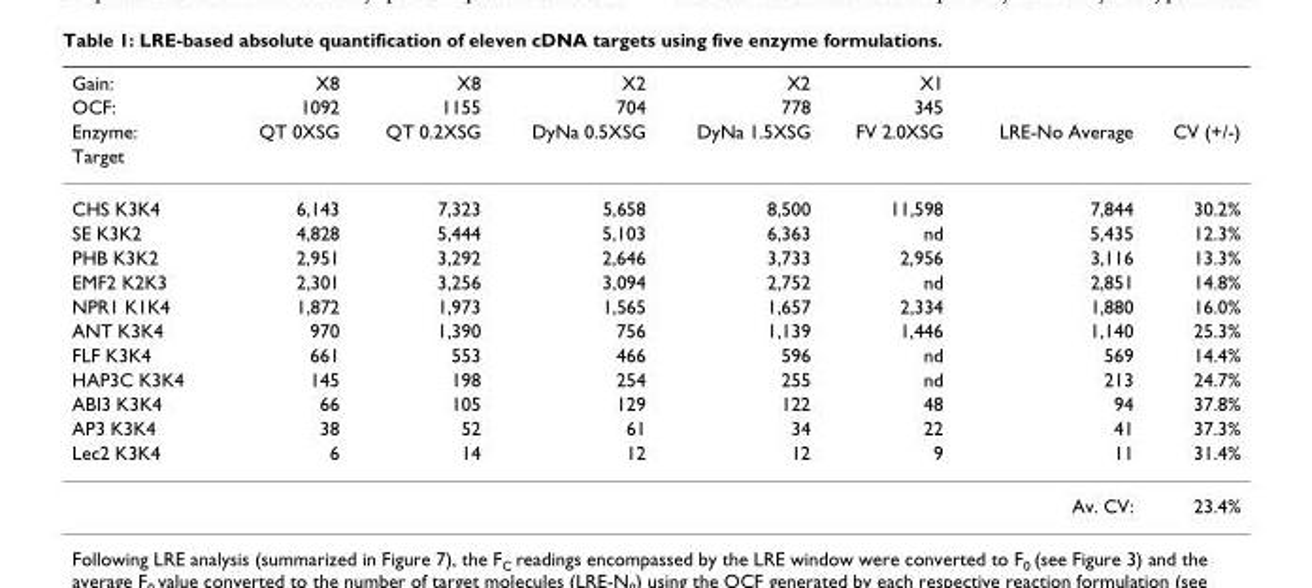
<table><thead><tr><td rowspan="4">Gain: OCF: Enzyme: Target</td><td rowspan="4">X8 1092 QT 0XSG</td><td rowspan="4">X8 1155 QT 0.2XSG</td><td rowspan="4">X2 704 DyNa 0.5XSG</td><td rowspan="4">X2 778 DyNa 1.5XSG</td><td rowspan="4">X1 345 FV 2.0XSG</td><td rowspan="4">LRE-No Average</td><td rowspan="4">CV (+/-)</td></tr><tr></tr><tr></tr><tr></tr></thead><tbody><tr><td>CHS K3K4</td><td>6,143</td><td>7,323</td><td>5,658</td><td>8,500</td><td>11,598</td><td>7,844</td><td>30.2%</td></tr><tr><td>SE K3K2</td><td>4,828</td><td>5,444</td><td>5,103</td><td>6,363</td><td>nd</td><td>5,435</td><td>12.3%</td></tr><tr><td>PHB K3K2</td><td>2,951</td><td>3,292</td><td>2,646</td><td>3,733</td><td>2,956</td><td>3,116</td><td>13.3%</td></tr><tr><td>EMF2 K2K3</td><td>2,301</td><td>3,256</td><td>3,094</td><td>2,752</td><td>nd</td><td>2,851</td><td>14.8%</td></tr><tr><td>NPR1 K1K4</td><td>1,872</td><td>1,973</td><td>1,565</td><td>1,657</td><td>2,334</td><td>1,880</td><td>16.0%</td></tr><tr><td>ANT K3K4</td><td>970</td><td>1,390</td><td>756</td><td>1,139</td><td>1,446</td><td>1,140</td><td>25.3%</td></tr><tr><td>FLF K3K4</td><td>661</td><td>553</td><td>466</td><td>596</td><td>nd</td><td>569</td><td>14.4%</td></tr><tr><td>HAP3C K3K4</td><td>145</td><td>198</td><td>254</td><td>255</td><td>nd</td><td>213</td><td>24.7%</td></tr><tr><td>ABI3 K3K4</td><td>66</td><td>105</td><td>129</td><td>122</td><td>48</td><td>94</td><td>37.8%</td></tr><tr><td>AP3 K3K4</td><td>38</td><td>52</td><td>61</td><td>34</td><td>22</td><td>41</td><td>37.3%</td></tr><tr><td rowspan="2">Lec2 K3K4</td><td>6</td><td>14</td><td>12</td><td>12</td><td>9</td><td>11</td><td>31.4%</td></tr><tr><td></td><td></td><td></td><td></td><td></td><td>Av. CV:</td><td>23.4%</td></tr></tbody></table>